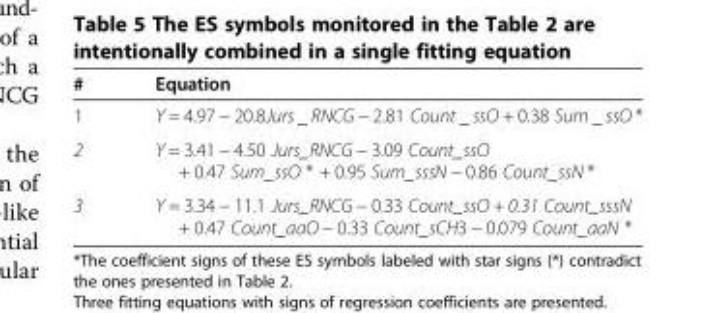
<table><thead><tr><td>#</td><td>Equation</td></tr></thead><tbody><tr><td>1</td><td>Y = 4.97 − 20.8Jurs _ RNCG − 2.81 Count _ ssO + 0.38 Sum _ ssO *</td></tr><tr><td>2</td><td>Y = 3.41 − 4.50 Jurs_RNCG − 3.09 Count_ssO + 0.47 Sum_ssO * + 0.95 Sum_sssN − 0.86 Count_ssN *</td></tr><tr><td>3</td><td>Y = 3.34 − 11.1 Jurs_RNCG − 0.33 Count_ssO + 0.31 Count_sssN + 0.47 Count_aaO − 0.33 Count_sCH3 − 0.079 Count_aaN *</td></tr></tbody></table>